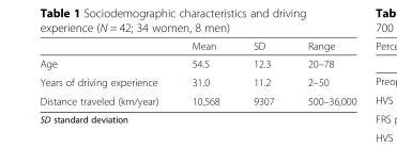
<table><thead><tr><td></td><td>Mean</td><td>SD</td><td>Range</td></tr></thead><tbody><tr><td>Age</td><td>54.5</td><td>12.3</td><td>20–78</td></tr><tr><td>Years of driving experience</td><td>31.0</td><td>11.2</td><td>2–50</td></tr><tr><td>Distance traveled (km/year)</td><td>10,568</td><td>9307</td><td>500–36,000</td></tr></tbody></table>